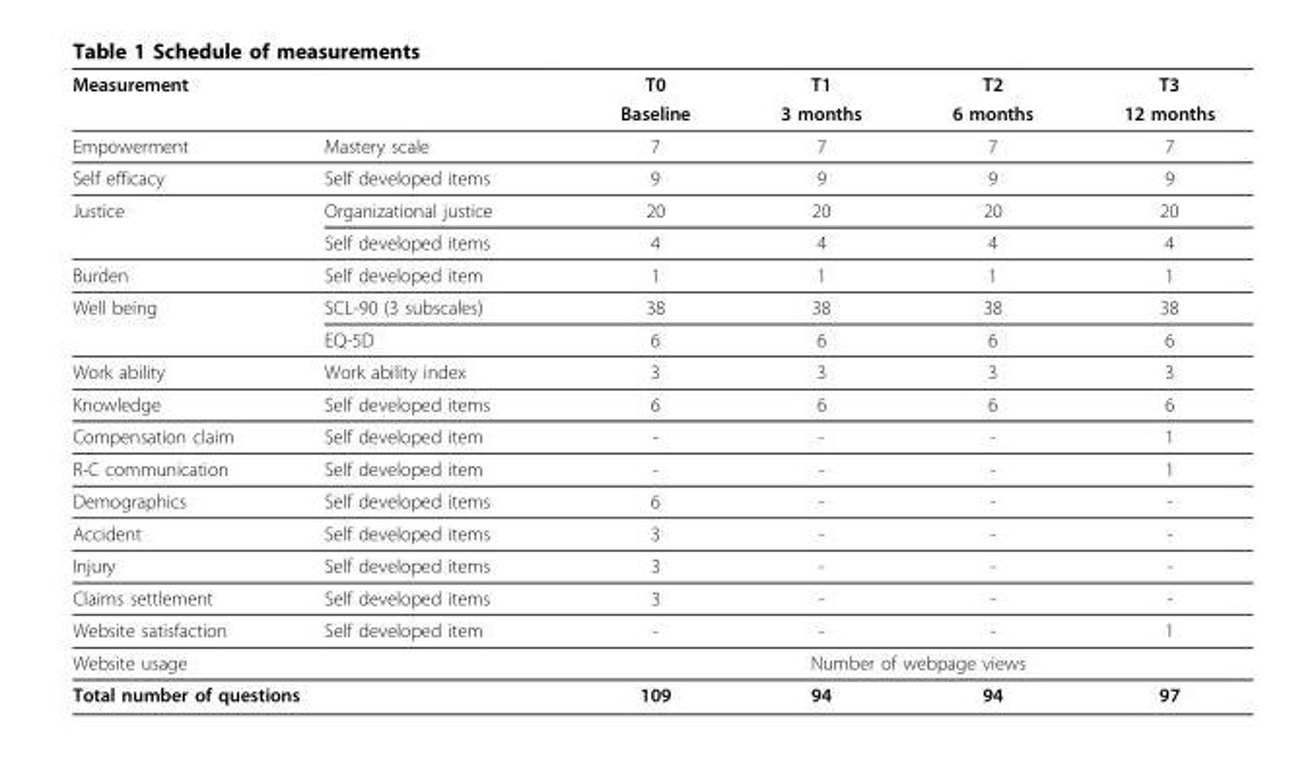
<table><thead><tr><td rowspan="2">Measurement</td><td rowspan="2"></td><td rowspan="2">T0 Baseline</td><td rowspan="2">T1 3 months</td><td rowspan="2">T2 6 months</td><td rowspan="2">T3 12 months</td></tr><tr></tr></thead><tbody><tr><td>Empowerment</td><td>Mastery scale</td><td>7</td><td>7</td><td>7</td><td>7</td></tr><tr><td>Self efficacy</td><td>Self developed items</td><td>9</td><td>9</td><td>9</td><td>9</td></tr><tr><td rowspan="2">Justice</td><td>Organizational justice</td><td>20</td><td>20</td><td>20</td><td>20</td></tr><tr><td>Self developed items</td><td>4</td><td>4</td><td>4</td><td>4</td></tr><tr><td>Burden</td><td>Self developed item</td><td>1</td><td>1</td><td>1</td><td>1</td></tr><tr><td rowspan="2">Well being</td><td>SCL-90 (3 subscales)</td><td>38</td><td>38</td><td>38</td><td>38</td></tr><tr><td>EQ-5D</td><td>6</td><td>6</td><td>6</td><td>6</td></tr><tr><td>Work ability</td><td>Work ability index</td><td>3</td><td>3</td><td>3</td><td>3</td></tr><tr><td>Knowledge</td><td>Self developed items</td><td>6</td><td>6</td><td>6</td><td>6</td></tr><tr><td>Compensation claim</td><td>Self developed item</td><td>-</td><td>-</td><td>-</td><td>1</td></tr><tr><td>R-C communication</td><td>Self developed item</td><td>-</td><td>-</td><td>-</td><td>1</td></tr><tr><td>Demographics</td><td>Self developed items</td><td>6</td><td>-</td><td>-</td><td>-</td></tr><tr><td>Accident</td><td>Self developed items</td><td>3</td><td>-</td><td>-</td><td>-</td></tr><tr><td>Injury</td><td>Self developed items</td><td>3</td><td>-</td><td>-</td><td>-</td></tr><tr><td>Claims settlement</td><td>Self developed items</td><td>3</td><td>-</td><td>-</td><td>-</td></tr><tr><td>Website satisfaction</td><td>Self developed item</td><td>-</td><td>-</td><td>-</td><td>1</td></tr><tr><td>Website usage</td><td></td><td colspan="4">Number of webpage views</td></tr><tr><td colspan="2">Total number of questions</td><td>109</td><td>94</td><td>94</td><td>97</td></tr></tbody></table>